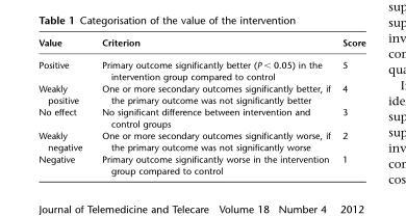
<table><thead><tr><td>Value</td><td>Criterion</td><td>Score</td></tr></thead><tbody><tr><td>Positive</td><td>Primary outcome significantly better (P &lt; 0.05) in the intervention group compared to control</td><td>5</td></tr><tr><td>Weakly positive</td><td>One or more secondary outcomes significantly better, if the primary outcome was not significantly better</td><td>4</td></tr><tr><td>No effect</td><td>No significant difference between intervention and control groups</td><td>3</td></tr><tr><td>Weakly negative</td><td>One or more secondary outcomes significantly worse, if the primary outcome was not significantly worse</td><td>2</td></tr><tr><td>Negative</td><td>Primary outcome significantly worse in the intervention group compared to control</td><td>1</td></tr></tbody></table>